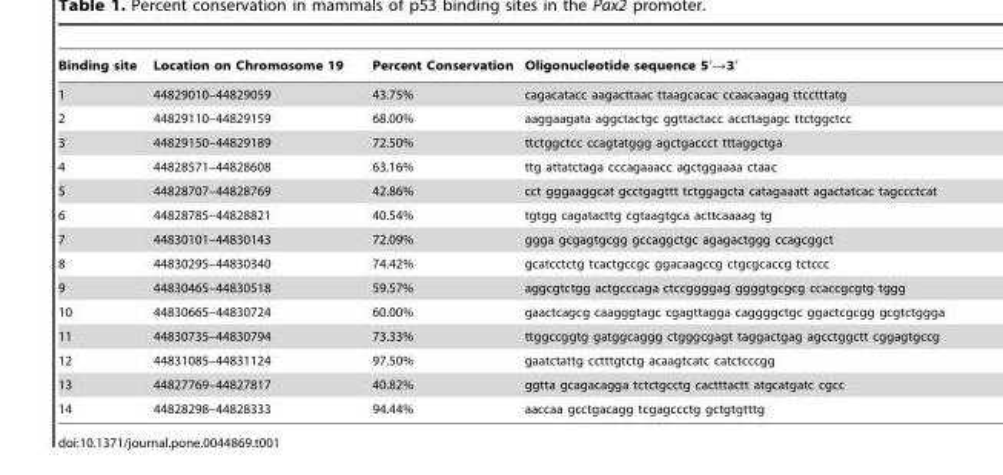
<table><thead><tr><td>Binding site</td><td>Location on Chromosome 19</td><td>Percent Conservation</td><td>Oligonucleotide sequence 5′→3′</td></tr></thead><tbody><tr><td>1</td><td>44829010–44829059</td><td>43.75%</td><td>cagacatacc aagacttaac ttaagcacac ccaacaagag ttcctttatg</td></tr><tr><td>2</td><td>44829110–44829159</td><td>68.00%</td><td>aaggaagata aggctactgc ggttactacc accttagagc ttctggctcc</td></tr><tr><td>3</td><td>44829150–44829189</td><td>72.50%</td><td>ttctggctcc ccagtatggg agctgaccct tttaggctga</td></tr><tr><td>4</td><td>44828571–44828608</td><td>63.16%</td><td>ttg attatctaga cccagaaacc agctggaaaa ctaac</td></tr><tr><td>5</td><td>44828707–44828769</td><td>42.86%</td><td>cct gggaaggcat gcctgagttt tctggagcta catagaaatt agactatcac tagccctcat</td></tr><tr><td>6</td><td>44828785–44828821</td><td>40.54%</td><td>tgtgg cagatacttg cgtaagtgca acttcaaaag tg</td></tr><tr><td>7</td><td>44830101–44830143</td><td>72.09%</td><td>ggga gcgagtgcgg gccaggctgc agagactggg ccagcggct</td></tr><tr><td>8</td><td>44830295–44830340</td><td>74.42%</td><td>gcatcctctg tcactgccgc ggacaagccg ctgcgcaccg tctccc</td></tr><tr><td>9</td><td>44830465–44830518</td><td>59.57%</td><td>aggcgtctgg actgcccaga ctccggggag ggggtgcgcg ccaccgcgtg tggg</td></tr><tr><td>10</td><td>44830665–44830724</td><td>60.00%</td><td>gaactcagcg caagggtagc cgagttagga caggggctgc ggactcgcgg gcgtctggga</td></tr><tr><td>11</td><td>44830735–44830794</td><td>73.33%</td><td>ttggccggtg gatggcaggg ctgggcgagt taggactgag agcctggctt cggagtgccg</td></tr><tr><td>12</td><td>44831085–44831124</td><td>97.50%</td><td>gaatctattg cctttgtctg acaagtcatc catctcccgg</td></tr><tr><td>13</td><td>44827769–44827817</td><td>40.82%</td><td>ggtta gcagacagga tctctgcctg cactttactt atgcatgatc cgcc</td></tr><tr><td>14</td><td>44828298–44828333</td><td>94.44%</td><td>aaccaa gcctgacagg tcgagccctg gctgtgtttg</td></tr></tbody></table>